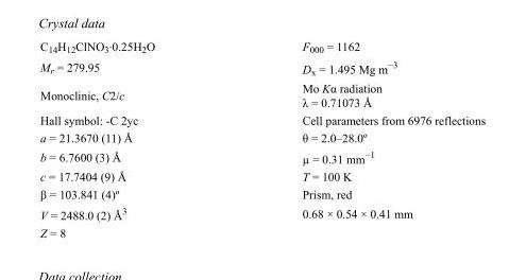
<table><tbody><tr><td>C<sub>14</sub>H<sub>12</sub>ClNO<sub>3</sub>·0.25H<sub>2</sub>O</td><td>F000 = 1162</td></tr><tr><td>M<sub>r</sub> = 279.95</td><td>D<sub>x</sub> = 1.495 Mg m<sup>−3</sup></td></tr><tr><td>Monoclinic, C2/c</td><td>Mo Kα radiation λ = 0.71073 Å</td></tr><tr><td>Hall symbol: -C 2yc</td><td>Cell parameters from 6976 reflections</td></tr><tr><td>a = 21.3670 (11) Å</td><td>θ = 2.0–28.0º</td></tr><tr><td>b = 6.7600 (3) Å</td><td>µ = 0.31 mm<sup>−1</sup></td></tr><tr><td>c = 17.7404 (9) Å</td><td>T = 100 K</td></tr><tr><td>β = 103.841 (4)º</td><td>Prism, red</td></tr><tr><td>V = 2488.0 (2) Å<sup>3</sup></td><td>0.68 × 0.54 × 0.41 mm</td></tr><tr><td>Z = 8</td><td></td></tr></tbody></table>